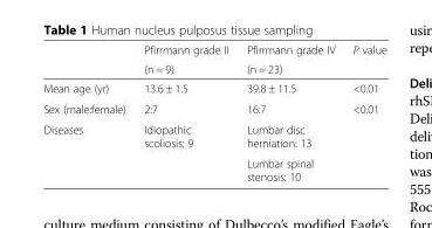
<table><thead><tr><td rowspan="2"></td><td rowspan="2">Pfirrmann grade II (n = 9)</td><td rowspan="2">Pfirrmann grade IV (n = 23)</td><td rowspan="2">P value</td></tr><tr></tr></thead><tbody><tr><td>Mean age (yr)</td><td>13.6 ± 1.5</td><td>39.8 ± 11.5</td><td>&lt;0.01</td></tr><tr><td>Sex (male:female)</td><td>2:7</td><td>16:7</td><td>&lt;0.01</td></tr><tr><td rowspan="2">Diseases</td><td rowspan="2">Idiopathic scoliosis: 9</td><td>Lumbar disc herniation: 13</td><td rowspan="2"></td></tr><tr><td>Lumbar spinal stenosis: 10</td></tr></tbody></table>